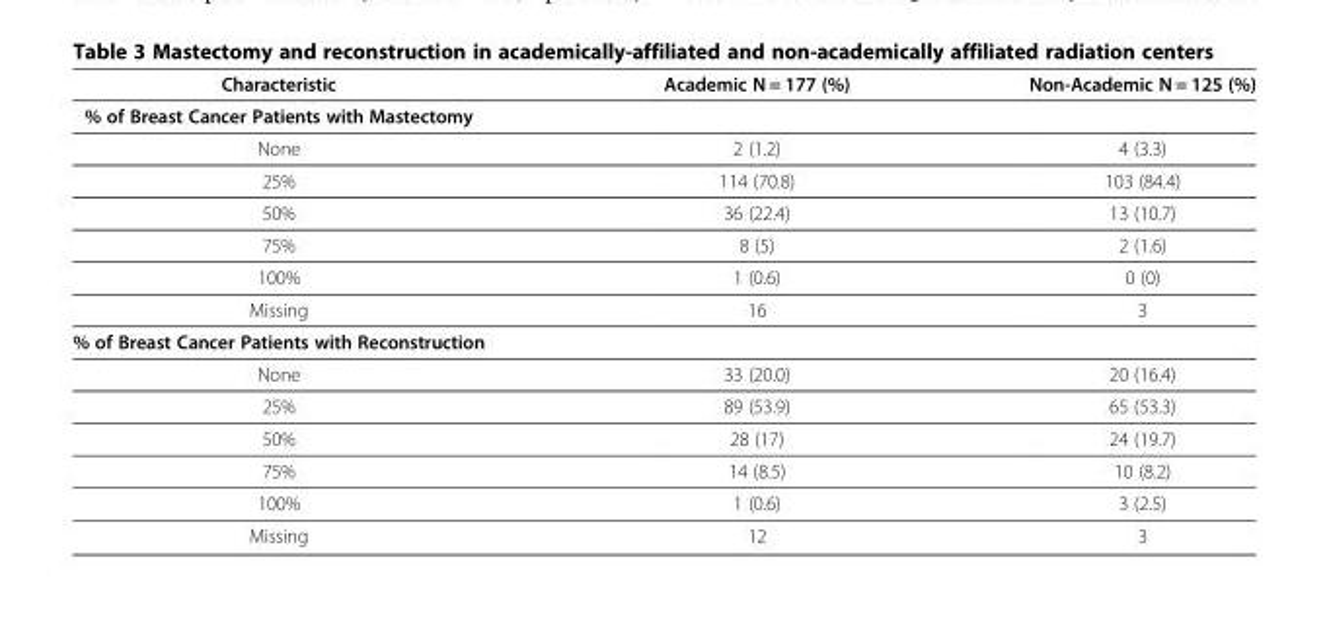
<table><thead><tr><td>Characteristic</td><td>Academic N = 177 (%)</td><td>Non-Academic N = 125 (%)</td></tr></thead><tbody><tr><td colspan="3">% of Breast Cancer Patients with Mastectomy</td></tr><tr><td>None</td><td>2 (1.2)</td><td>4 (3.3)</td></tr><tr><td>25%</td><td>114 (70.8)</td><td>103 (84.4)</td></tr><tr><td>50%</td><td>36 (22.4)</td><td>13 (10.7)</td></tr><tr><td>75%</td><td>8 (5)</td><td>2 (1.6)</td></tr><tr><td>100%</td><td>1 (0.6)</td><td>0 (0)</td></tr><tr><td>Missing</td><td>16</td><td>3</td></tr><tr><td colspan="3">% of Breast Cancer Patients with Reconstruction</td></tr><tr><td>None</td><td>33 (20.0)</td><td>20 (16.4)</td></tr><tr><td>25%</td><td>89 (53.9)</td><td>65 (53.3)</td></tr><tr><td>50%</td><td>28 (17)</td><td>24 (19.7)</td></tr><tr><td>75%</td><td>14 (8.5)</td><td>10 (8.2)</td></tr><tr><td>100%</td><td>1 (0.6)</td><td>3 (2.5)</td></tr><tr><td>Missing</td><td>12</td><td>3</td></tr></tbody></table>